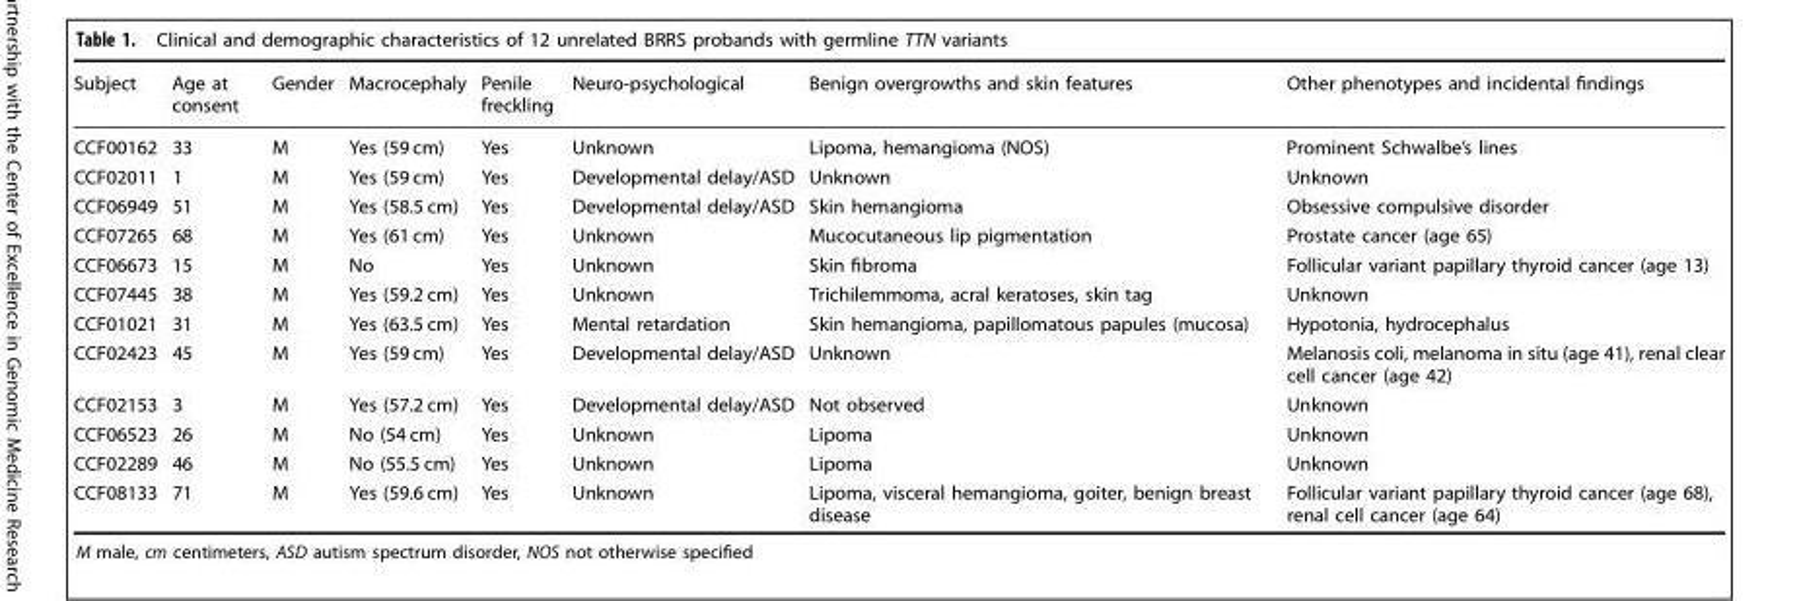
<table><thead><tr><td>Subject</td><td>Age at consent</td><td>Gender</td><td>Macrocephaly</td><td>Penile freckling</td><td>Neuro-psychological</td><td>Benign overgrowths and skin features</td><td>Other phenotypes and incidental findings</td></tr></thead><tbody><tr><td>CCF00162</td><td>33</td><td>M</td><td>Yes (59 cm)</td><td>Yes</td><td>Unknown</td><td>Lipoma, hemangioma (NOS)</td><td>Prominent Schwalbe’s lines</td></tr><tr><td>CCF02011</td><td>1</td><td>M</td><td>Yes (59 cm)</td><td>Yes</td><td>Developmental delay/ASD</td><td>Unknown</td><td>Unknown</td></tr><tr><td>CCF06949</td><td>51</td><td>M</td><td>Yes (58.5 cm)</td><td>Yes</td><td>Developmental delay/ASD</td><td>Skin hemangioma</td><td>Obsessive compulsive disorder</td></tr><tr><td>CCF07265</td><td>68</td><td>M</td><td>Yes (61 cm)</td><td>Yes</td><td>Unknown</td><td>Mucocutaneous lip pigmentation</td><td>Prostate cancer (age 65)</td></tr><tr><td>CCF06673</td><td>15</td><td>M</td><td>No</td><td>Yes</td><td>Unknown</td><td>Skin fibroma</td><td>Follicular variant papillary thyroid cancer (age 13)</td></tr><tr><td>CCF07445</td><td>38</td><td>M</td><td>Yes (59.2 cm)</td><td>Yes</td><td>Unknown</td><td>Trichilemmoma, acral keratoses, skin tag</td><td>Unknown</td></tr><tr><td>CCF01021</td><td>31</td><td>M</td><td>Yes (63.5 cm)</td><td>Yes</td><td>Mental retardation</td><td>Skin hemangioma, papillomatous papules (mucosa)</td><td>Hypotonia, hydrocephalus</td></tr><tr><td>CCF02423</td><td>45</td><td>M</td><td>Yes (59 cm)</td><td>Yes</td><td>Developmental delay/ASD</td><td>Unknown</td><td>Melanosis coli, melanoma in situ (age 41), renal clear cell cancer (age 42)</td></tr><tr><td>CCF02153</td><td>3</td><td>M</td><td>Yes (57.2 cm)</td><td>Yes</td><td>Developmental delay/ASD</td><td>Not observed</td><td>Unknown</td></tr><tr><td>CCF06523</td><td>26</td><td>M</td><td>No (54 cm)</td><td>Yes</td><td>Unknown</td><td>Lipoma</td><td>Unknown</td></tr><tr><td>CCF02289</td><td>46</td><td>M</td><td>No (55.5 cm)</td><td>Yes</td><td>Unknown</td><td>Lipoma</td><td>Unknown</td></tr><tr><td>CCF08133</td><td>71</td><td>M</td><td>Yes (59.6 cm)</td><td>Yes</td><td>Unknown</td><td>Lipoma, visceral hemangioma, goiter, benign breast disease</td><td>Follicular variant papillary thyroid cancer (age 68), renal cell cancer (age 64)</td></tr></tbody></table>